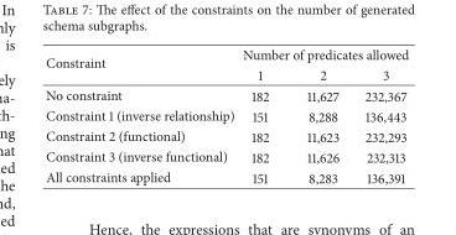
<table><thead><tr><td rowspan="2">Constraint</td><td colspan="3">Number of predicates allowed</td></tr><tr><td>1</td><td>2</td><td>3</td></tr></thead><tbody><tr><td>No constraint</td><td>182</td><td>11,627</td><td>232,367</td></tr><tr><td>Constraint 1 (inverse relationship)</td><td>151</td><td>8,288</td><td>136,443</td></tr><tr><td>Constraint 2 (functional)</td><td>182</td><td>11,623</td><td>232,293</td></tr><tr><td>Constraint 3 (inverse functional)</td><td>182</td><td>11,626</td><td>232,313</td></tr><tr><td>All constraints applied</td><td>151</td><td>8,283</td><td>136,391</td></tr></tbody></table>